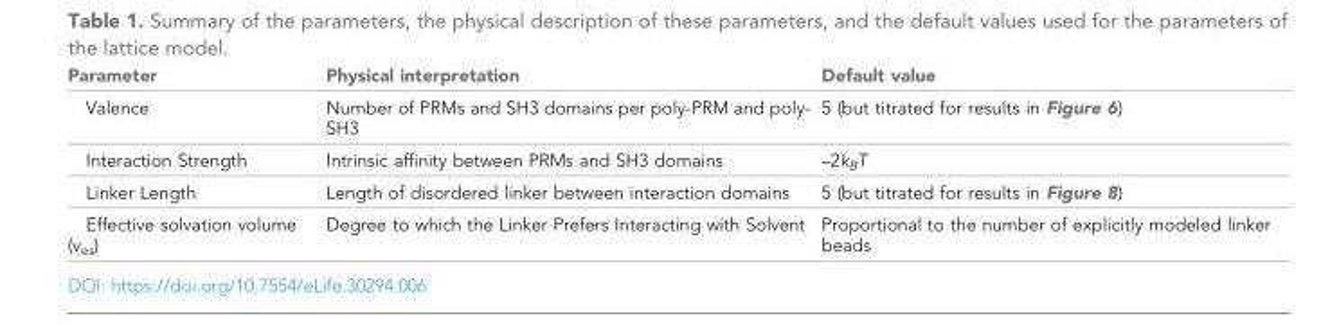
<table><thead><tr><td>Parameter</td><td>Physical interpretation</td><td>Default value</td></tr></thead><tbody><tr><td>Valence</td><td>Number of PRMs and SH3 domains per poly-PRM and poly- SH3</td><td>5 (but titrated for results in Figure 6)</td></tr><tr><td>Interaction Strength</td><td>Intrinsic affinity between PRMs and SH3 domains</td><td>–2k<sub>B</sub>T</td></tr><tr><td>Linker Length</td><td>Length of disordered linker between interaction domains</td><td>5 (but titrated for results in Figure 8)</td></tr><tr><td>Effective solvation volume (v<sub>es</sub>)</td><td>Degree to which the Linker Prefers Interacting with Solvent</td><td>Proportional to the number of explicitly modeled linker beads</td></tr></tbody></table>